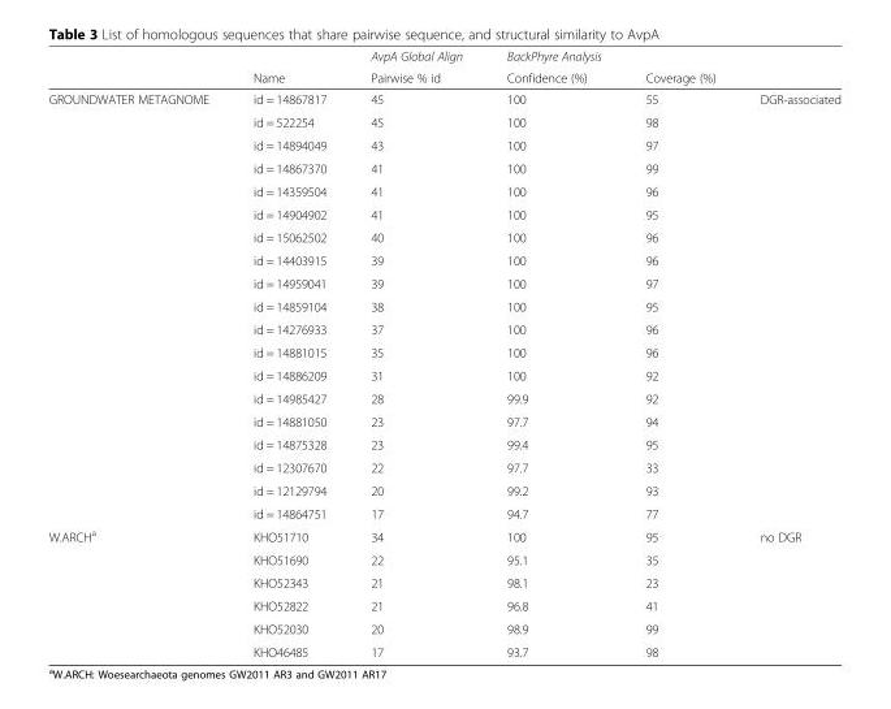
<table><thead><tr><td rowspan="2"></td><td rowspan="2">Name</td><td rowspan="2">AvpA Global Align Pairwise % id</td><td rowspan="2">BackPhyre Analysis Confidence (%)</td><td rowspan="2">Coverage (%)</td><td rowspan="2"></td></tr><tr></tr></thead><tbody><tr><td rowspan="19">GROUNDWATER METAGNOME</td><td>id = 14867817</td><td>45</td><td>100</td><td>55</td><td rowspan="19">DGR-associated</td></tr><tr><td>id = 522254</td><td>45</td><td>100</td><td>98</td></tr><tr><td>id = 14894049</td><td>43</td><td>100</td><td>97</td></tr><tr><td>id = 14867370</td><td>41</td><td>100</td><td>99</td></tr><tr><td>id = 14359504</td><td>41</td><td>100</td><td>96</td></tr><tr><td>id = 14904902</td><td>41</td><td>100</td><td>95</td></tr><tr><td>id = 15062502</td><td>40</td><td>100</td><td>96</td></tr><tr><td>id = 14403915</td><td>39</td><td>100</td><td>96</td></tr><tr><td>id = 14959041</td><td>39</td><td>100</td><td>97</td></tr><tr><td>id = 14859104</td><td>38</td><td>100</td><td>95</td></tr><tr><td>id = 14276933</td><td>37</td><td>100</td><td>96</td></tr><tr><td>id = 14881015</td><td>35</td><td>100</td><td>96</td></tr><tr><td>id = 14886209</td><td>31</td><td>100</td><td>92</td></tr><tr><td>id = 14985427</td><td>28</td><td>99.9</td><td>92</td></tr><tr><td>id = 14881050</td><td>23</td><td>97.7</td><td>94</td></tr><tr><td>id = 14875328</td><td>23</td><td>99.4</td><td>95</td></tr><tr><td>id = 12307670</td><td>22</td><td>97.7</td><td>33</td></tr><tr><td>id = 12129794</td><td>20</td><td>99.2</td><td>93</td></tr><tr><td>id = 14864751</td><td>17</td><td>94.7</td><td>77</td></tr><tr><td rowspan="6">W.ARCH<sup>a</sup></td><td>KHO51710</td><td>34</td><td>100</td><td>95</td><td rowspan="6">no DGR</td></tr><tr><td>KHO51690</td><td>22</td><td>95.1</td><td>35</td></tr><tr><td>KHO52343</td><td>21</td><td>98.1</td><td>23</td></tr><tr><td>KHO52822</td><td>21</td><td>96.8</td><td>41</td></tr><tr><td>KHO52030</td><td>20</td><td>98.9</td><td>99</td></tr><tr><td>KHO46485</td><td>17</td><td>93.7</td><td>98</td></tr></tbody></table>